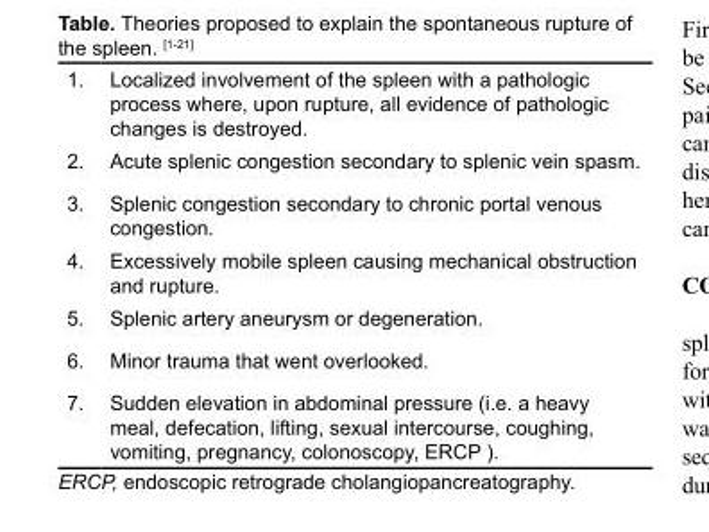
<table><tbody><tr><td>1.</td><td>Localized involvement of the spleen with a pathologic process where, upon rupture, all evidence of pathologic changes is destroyed.</td></tr><tr><td>2.</td><td>Acute splenic congestion secondary to splenic vein spasm.</td></tr><tr><td>3.</td><td>Splenic congestion secondary to chronic portal venous congestion.</td></tr><tr><td>4.</td><td>Excessively mobile spleen causing mechanical obstruction and rupture.</td></tr><tr><td>5.</td><td>Splenic artery aneurysm or degeneration.</td></tr><tr><td>6.</td><td>Minor trauma that went overlooked.</td></tr><tr><td>7.</td><td>Sudden elevation in abdominal pressure (i.e. a heavy meal, defecation, lifting, sexual intercourse, coughing, vomiting, pregnancy, colonoscopy, ERCP ).</td></tr></tbody></table>